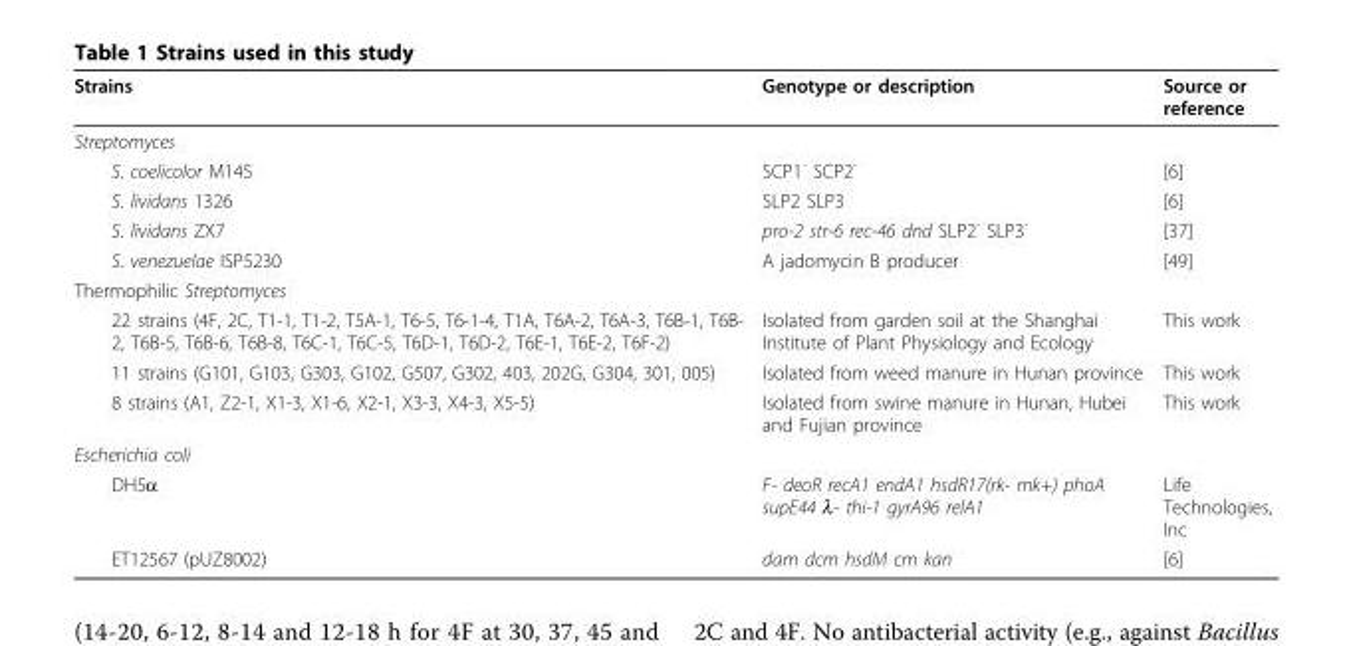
<table><thead><tr><td>Strains</td><td>Genotype or description</td><td>Source or reference</td></tr></thead><tbody><tr><td colspan="3">Streptomyces</td></tr><tr><td>S. coelicolor M145</td><td>SCP1<sup>-</sup> SCP2<sup>-</sup></td><td>[6]</td></tr><tr><td>S. lividans 1326</td><td>SLP2 SLP3</td><td>[6]</td></tr><tr><td>S. lividans ZX7</td><td>pro-2 str-6 rec-46 dnd SLP2<sup>-</sup> SLP3<sup>-</sup></td><td>[37]</td></tr><tr><td>S. venezuelae ISP5230</td><td>A jadomycin B producer</td><td>[49]</td></tr><tr><td colspan="3">Thermophilic Streptomyces</td></tr><tr><td>22 strains (4F, 2C, T1-1, T1-2, T5A-1, T6-5, T6-1-4, T1A, T6A-2, T6A-3, T6B-1, T6B- 2, T6B-5, T6B-6, T6B-8, T6C-1, T6C-5, T6D-1, T6D-2, T6E-1, T6E-2, T6F-2)</td><td>Isolated from garden soil at the Shanghai Institute of Plant Physiology and Ecology</td><td>This work</td></tr><tr><td>11 strains (G101, G103, G303, G102, G507, G302, 403, 202G, G304, 301, 005)</td><td>Isolated from weed manure in Hunan province</td><td>This work</td></tr><tr><td>8 strains (A1, Z2-1, X1-3, X1-6, X2-1, X3-3, X4-3, X5-5)</td><td>Isolated from swine manure in Hunan, Hubei and Fujian province</td><td>This work</td></tr><tr><td colspan="3">Escherichia coli</td></tr><tr><td>DH5α</td><td>F- deoR recA1 endA1 hsdR17(rk- mk+) phoA supE44 λ- thi-1 gyrA96 relA1</td><td>Life Technologies, Inc</td></tr><tr><td>ET12567 (pUZ8002)</td><td>dam dcm hsdM cm kan</td><td>[6]</td></tr></tbody></table>